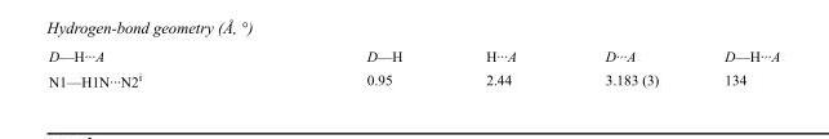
<table><tbody><tr><td>D—H···A</td><td>D—H</td><td>H···A</td><td>D···A</td><td>D—H···A</td></tr><tr><td>N1—H1N···N2<sup>i</sup></td><td>0.95</td><td>2.44</td><td>3.183 (3)</td><td>134</td></tr></tbody></table>